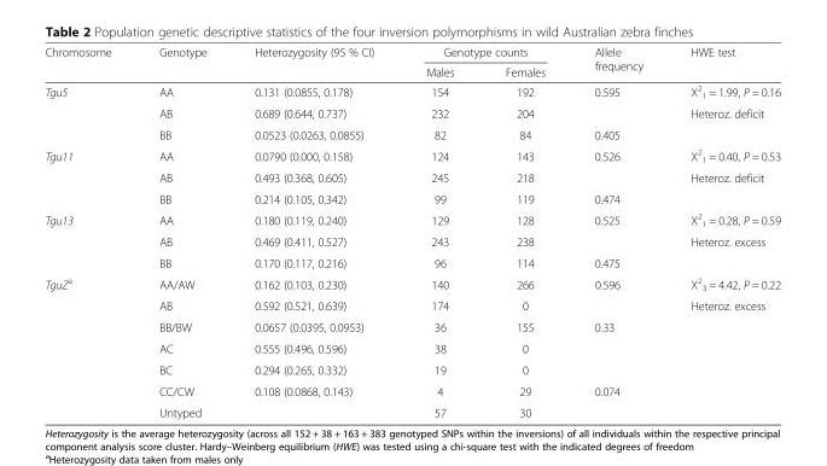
<table><thead><tr><td rowspan="2">Chromosome</td><td rowspan="2">Genotype</td><td rowspan="2">Heterozygosity (95 % CI)</td><td colspan="2">Genotype counts</td><td rowspan="2">Allele frequency</td><td rowspan="2">HWE test</td></tr><tr><td>Males</td><td>Females</td></tr></thead><tbody><tr><td rowspan="3">Tgu5</td><td>AA</td><td>0.131 (0.0855, 0.178)</td><td>154</td><td>192</td><td>0.595</td><td>X<sup>2</sup> <sub>1</sub> = 1.99, P = 0.16</td></tr><tr><td>AB</td><td>0.689 (0.644, 0.737)</td><td>232</td><td>204</td><td></td><td>Heteroz. deficit</td></tr><tr><td>BB</td><td>0.0523 (0.0263, 0.0855)</td><td>82</td><td>84</td><td>0.405</td><td></td></tr><tr><td rowspan="3">Tgu11</td><td>AA</td><td>0.0790 (0.000, 0.158)</td><td>124</td><td>143</td><td>0.526</td><td>X<sup>2</sup> <sub>1</sub> = 0.40, P = 0.53</td></tr><tr><td>AB</td><td>0.493 (0.368, 0.605)</td><td>245</td><td>218</td><td></td><td>Heteroz. deficit</td></tr><tr><td>BB</td><td>0.214 (0.105, 0.342)</td><td>99</td><td>119</td><td>0.474</td><td></td></tr><tr><td rowspan="3">Tgu13</td><td>AA</td><td>0.180 (0.119, 0.240)</td><td>129</td><td>128</td><td>0.525</td><td>X<sup>2</sup> <sub>1</sub> = 0.28, P = 0.59</td></tr><tr><td>AB</td><td>0.469 (0.411, 0.527)</td><td>243</td><td>238</td><td></td><td>Heteroz. excess</td></tr><tr><td>BB</td><td>0.170 (0.117, 0.216)</td><td>96</td><td>114</td><td>0.475</td><td></td></tr><tr><td rowspan="7">TguZ<sup>a</sup></td><td>AA/AW</td><td>0.162 (0.103, 0.230)</td><td>140</td><td>266</td><td>0.596</td><td>X<sup>2</sup> <sub>3</sub> = 4.42, P = 0.22</td></tr><tr><td>AB</td><td>0.592 (0.521, 0.639)</td><td>174</td><td>0</td><td></td><td>Heteroz. excess</td></tr><tr><td>BB/BW</td><td>0.0657 (0.0395, 0.0953)</td><td>36</td><td>155</td><td>0.33</td><td></td></tr><tr><td>AC</td><td>0.555 (0.496, 0.596)</td><td>38</td><td>0</td><td></td><td></td></tr><tr><td>BC</td><td>0.294 (0.265, 0.332)</td><td>19</td><td>0</td><td></td><td></td></tr><tr><td>CC/CW</td><td>0.108 (0.0868, 0.143)</td><td>4</td><td>29</td><td>0.074</td><td></td></tr><tr><td>Untyped</td><td></td><td>57</td><td>30</td><td></td><td></td></tr></tbody></table>